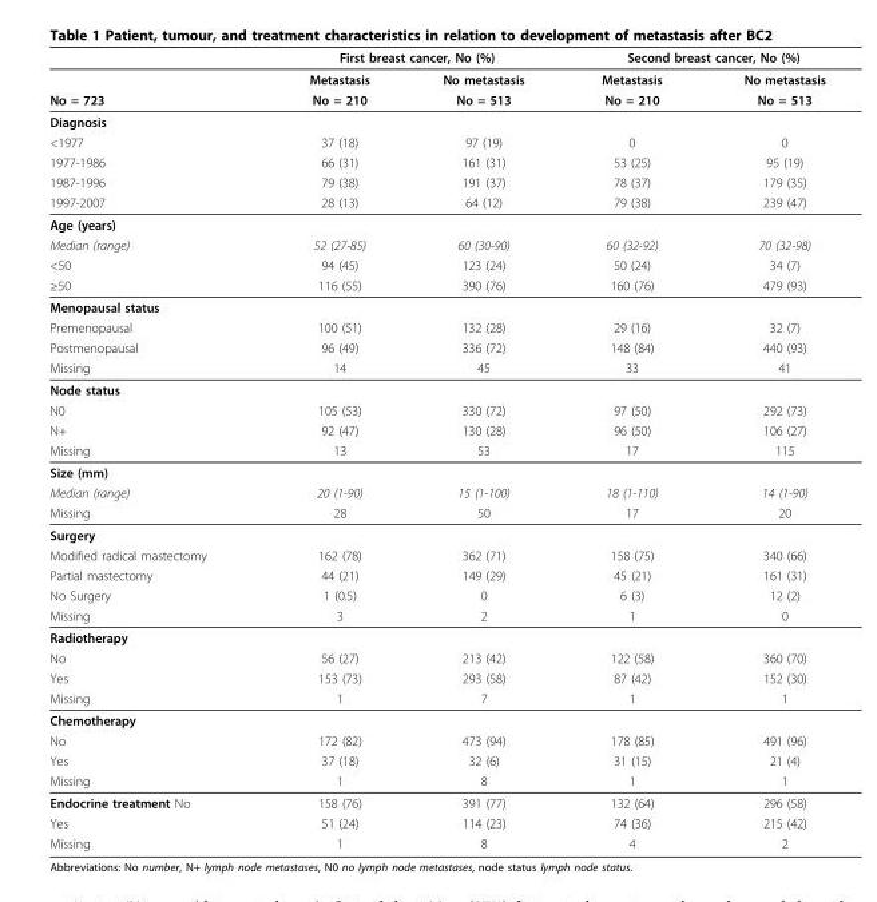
<table><thead><tr><td rowspan="2"></td><td colspan="2">First breast cancer, No (%)</td><td colspan="2">Second breast cancer, No (%)</td></tr><tr><td>Metastasis</td><td>No metastasis</td><td>Metastasis</td><td>No metastasis</td></tr></thead><tbody><tr><td>No = 723</td><td>No = 210</td><td>No = 513</td><td>No = 210</td><td>No = 513</td></tr><tr><td colspan="5">Diagnosis</td></tr><tr><td>&lt;1977</td><td>37 (18)</td><td>97 (19)</td><td>0</td><td>0</td></tr><tr><td>1977-1986</td><td>66 (31)</td><td>161 (31)</td><td>53 (25)</td><td>95 (19)</td></tr><tr><td>1987-1996</td><td>79 (38)</td><td>191 (37)</td><td>78 (37)</td><td>179 (35)</td></tr><tr><td>1997-2007</td><td>28 (13)</td><td>64 (12)</td><td>79 (38)</td><td>239 (47)</td></tr><tr><td colspan="5">Age (years)</td></tr><tr><td>Median (range)</td><td>52 (27-85)</td><td>60 (30-90)</td><td>60 (32-92)</td><td>70 (32-98)</td></tr><tr><td>&lt;50</td><td>94 (45)</td><td>123 (24)</td><td>50 (24)</td><td>34 (7)</td></tr><tr><td>≥50</td><td>116 (55)</td><td>390 (76)</td><td>160 (76)</td><td>479 (93)</td></tr><tr><td colspan="5">Menopausal status</td></tr><tr><td>Premenopausal</td><td>100 (51)</td><td>132 (28)</td><td>29 (16)</td><td>32 (7)</td></tr><tr><td>Postmenopausal</td><td>96 (49)</td><td>336 (72)</td><td>148 (84)</td><td>440 (93)</td></tr><tr><td>Missing</td><td>14</td><td>45</td><td>33</td><td>41</td></tr><tr><td colspan="5">Node status</td></tr><tr><td>N0</td><td>105 (53)</td><td>330 (72)</td><td>97 (50)</td><td>292 (73)</td></tr><tr><td>N+</td><td>92 (47)</td><td>130 (28)</td><td>96 (50)</td><td>106 (27)</td></tr><tr><td>Missing</td><td>13</td><td>53</td><td>17</td><td>115</td></tr><tr><td colspan="5">Size (mm)</td></tr><tr><td>Median (range)</td><td>20 (1-90)</td><td>15 (1-100)</td><td>18 (1-110)</td><td>14 (1-90)</td></tr><tr><td>Missing</td><td>28</td><td>50</td><td>17</td><td>20</td></tr><tr><td colspan="5">Surgery</td></tr><tr><td>Modified radical mastectomy</td><td>162 (78)</td><td>362 (71)</td><td>158 (75)</td><td>340 (66)</td></tr><tr><td>Partial mastectomy</td><td>44 (21)</td><td>149 (29)</td><td>45 (21)</td><td>161 (31)</td></tr><tr><td>No Surgery</td><td>1 (0.5)</td><td>0</td><td>6 (3)</td><td>12 (2)</td></tr><tr><td>Missing</td><td>3</td><td>2</td><td>1</td><td>0</td></tr><tr><td colspan="5">Radiotherapy</td></tr><tr><td>No</td><td>56 (27)</td><td>213 (42)</td><td>122 (58)</td><td>360 (70)</td></tr><tr><td>Yes</td><td>153 (73)</td><td>293 (58)</td><td>87 (42)</td><td>152 (30)</td></tr><tr><td>Missing</td><td>1</td><td>7</td><td>1</td><td>1</td></tr><tr><td colspan="5">Chemotherapy</td></tr><tr><td>No</td><td>172 (82)</td><td>473 (94)</td><td>178 (85)</td><td>491 (96)</td></tr><tr><td>Yes</td><td>37 (18)</td><td>32 (6)</td><td>31 (15)</td><td>21 (4)</td></tr><tr><td>Missing</td><td>1</td><td>8</td><td>1</td><td>1</td></tr><tr><td>Endocrine treatment No</td><td>158 (76)</td><td>391 (77)</td><td>132 (64)</td><td>296 (58)</td></tr><tr><td>Yes</td><td>51 (24)</td><td>114 (23)</td><td>74 (36)</td><td>215 (42)</td></tr><tr><td>Missing</td><td>1</td><td>8</td><td>4</td><td>2</td></tr></tbody></table>